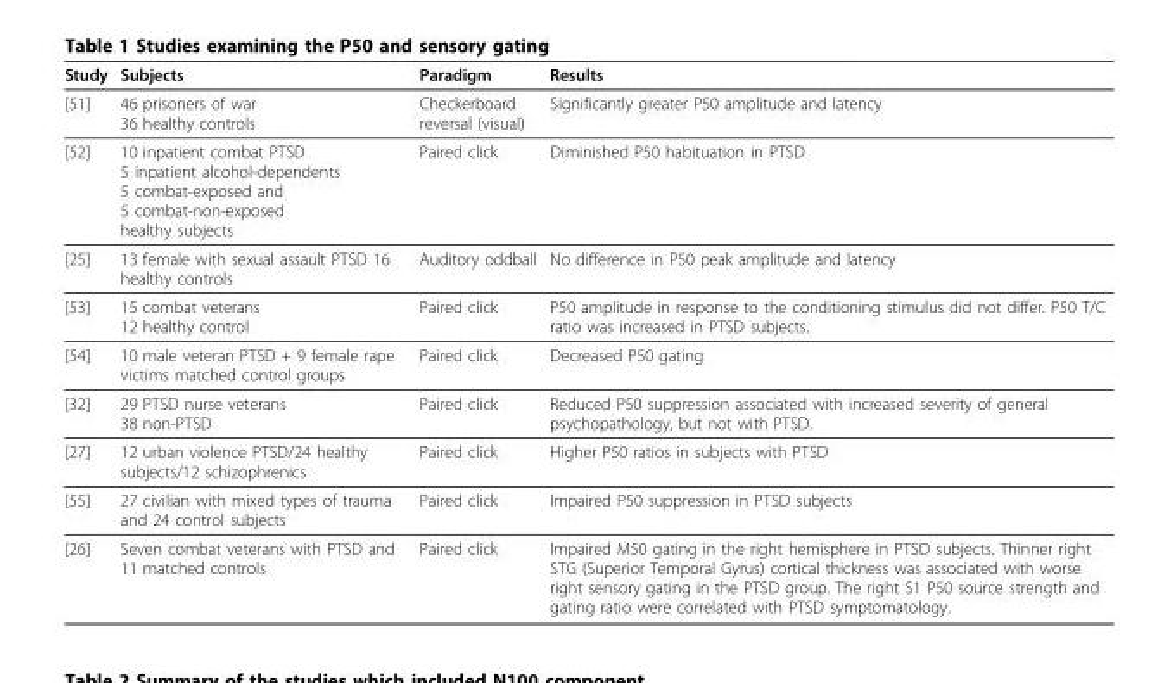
<table><thead><tr><td>Study</td><td>Subjects</td><td>Paradigm</td><td>Results</td></tr></thead><tbody><tr><td>[51]</td><td>46 prisoners of war 36 healthy controls</td><td>Checkerboard reversal (visual)</td><td>Significantly greater P50 amplitude and latency</td></tr><tr><td>[52]</td><td>10 inpatient combat PTSD 5 inpatient alcohol-dependents 5 combat-exposed and 5 combat-non-exposed healthy subjects</td><td>Paired click</td><td>Diminished P50 habituation in PTSD</td></tr><tr><td>[25]</td><td>13 female with sexual assault PTSD 16 healthy controls</td><td>Auditory oddball</td><td>No difference in P50 peak amplitude and latency</td></tr><tr><td>[53]</td><td>15 combat veterans 12 healthy control</td><td>Paired click</td><td>P50 amplitude in response to the conditioning stimulus did not differ. P50 T/C ratio was increased in PTSD subjects.</td></tr><tr><td>[54]</td><td>10 male veteran PTSD + 9 female rape victims matched control groups</td><td>Paired click</td><td>Decreased P50 gating</td></tr><tr><td>[32]</td><td>29 PTSD nurse veterans 38 non-PTSD</td><td>Paired click</td><td>Reduced P50 suppression associated with increased severity of general psychopathology, but not with PTSD.</td></tr><tr><td>[27]</td><td>12 urban violence PTSD/24 healthy subjects/12 schizophrenics</td><td>Paired click</td><td>Higher P50 ratios in subjects with PTSD</td></tr><tr><td>[55]</td><td>27 civilian with mixed types of trauma and 24 control subjects</td><td>Paired click</td><td>Impaired P50 suppression in PTSD subjects</td></tr><tr><td>[26]</td><td>Seven combat veterans with PTSD and 11 matched controls</td><td>Paired click</td><td>Impaired M50 gating in the right hemisphere in PTSD subjects. Thinner right STG (Superior Temporal Gyrus) cortical thickness was associated with worse right sensory gating in the PTSD group. The right S1 P50 source strength and gating ratio were correlated with PTSD symptomatology.</td></tr></tbody></table>